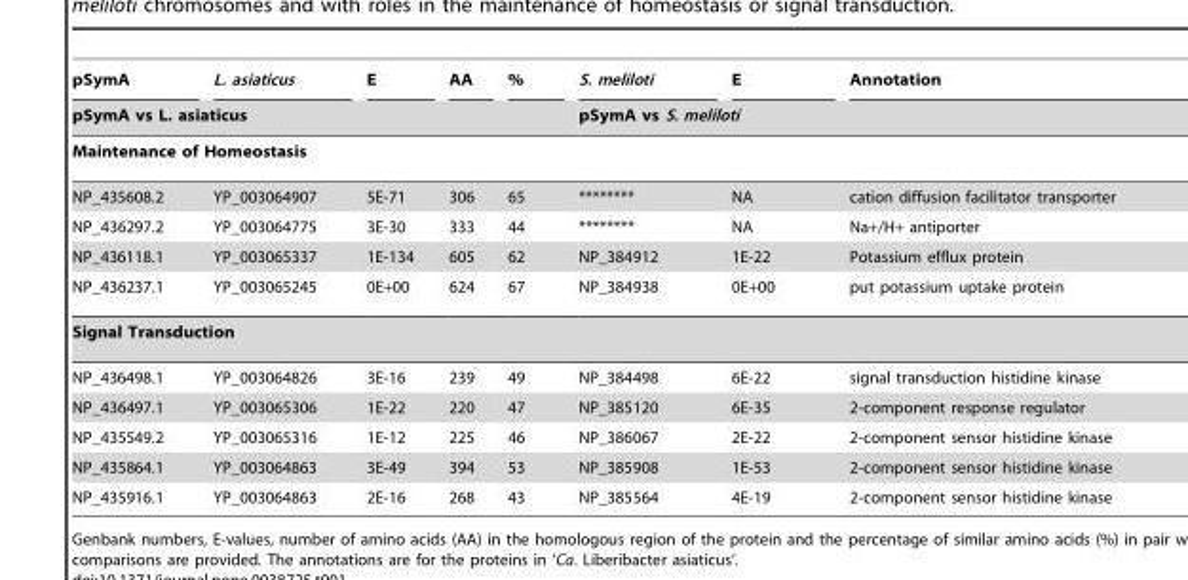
<table><thead><tr><td>pSymA</td><td>L. asiaticus</td><td>E</td><td>AA</td><td>%</td><td>S. meliloti</td><td>E</td><td>Annotation</td></tr><tr><td colspan="5">pSymA vs L. asiaticus</td><td colspan="3">pSymA vs S. meliloti</td></tr></thead><tbody><tr><td colspan="8">Maintenance of Homeostasis</td></tr><tr><td>NP_435608.2</td><td>YP_003064907</td><td>5E-71</td><td>306</td><td>65</td><td>********</td><td>NA</td><td>cation diffusion facilitator transporter</td></tr><tr><td>NP_436297.2</td><td>YP_003064775</td><td>3E-30</td><td>333</td><td>44</td><td>********</td><td>NA</td><td>Na+/H+ antiporter</td></tr><tr><td>NP_436118.1</td><td>YP_003065337</td><td>1E-134</td><td>605</td><td>62</td><td>NP_384912</td><td>1E-22</td><td>Potassium efflux protein</td></tr><tr><td>NP_436237.1</td><td>YP_003065245</td><td>0E+00</td><td>624</td><td>67</td><td>NP_384938</td><td>0E+00</td><td>put potassium uptake protein</td></tr><tr><td colspan="8">Signal Transduction</td></tr><tr><td>NP_436498.1</td><td>YP_003064826</td><td>3E-16</td><td>239</td><td>49</td><td>NP_384498</td><td>6E-22</td><td>signal transduction histidine kinase</td></tr><tr><td>NP_436497.1</td><td>YP_003065306</td><td>1E-22</td><td>220</td><td>47</td><td>NP_385120</td><td>6E-35</td><td>2-component response regulator</td></tr><tr><td>NP_435549.2</td><td>YP_003065316</td><td>1E-12</td><td>225</td><td>46</td><td>NP_386067</td><td>2E-22</td><td>2-component sensor histidine kinase</td></tr><tr><td>NP_435864.1</td><td>YP_003064863</td><td>3E-49</td><td>394</td><td>53</td><td>NP_385908</td><td>1E-53</td><td>2-component sensor histidine kinase</td></tr><tr><td>NP_435916.1</td><td>YP_003064863</td><td>2E-16</td><td>268</td><td>43</td><td>NP_385564</td><td>4E-19</td><td>2-component sensor histidine kinase</td></tr></tbody></table>